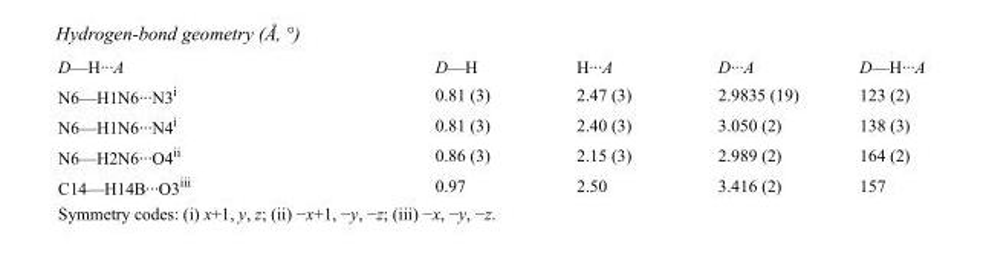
<table><tbody><tr><td>D—H···A</td><td>D—H</td><td>H···A</td><td>D···A</td><td>D—H···A</td></tr><tr><td>N6—H1N6···N3<sup>i</sup></td><td>0.81 (3)</td><td>2.47 (3)</td><td>2.9835 (19)</td><td>123 (2)</td></tr><tr><td>N6—H1N6···N4<sup>i</sup></td><td>0.81 (3)</td><td>2.40 (3)</td><td>3.050 (2)</td><td>138 (3)</td></tr><tr><td>N6—H2N6···O4<sup>ii</sup></td><td>0.86 (3)</td><td>2.15 (3)</td><td>2.989 (2)</td><td>164 (2)</td></tr><tr><td>C14—H14B···O3<sup>iii</sup></td><td>0.97</td><td>2.50</td><td>3.416 (2)</td><td>157</td></tr></tbody></table>